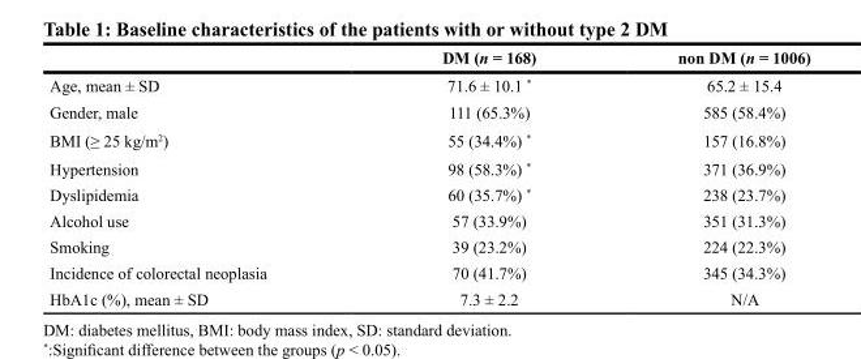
<table><thead><tr><td></td><td>DM (n = 168)</td><td>non DM (n = 1006)</td></tr></thead><tbody><tr><td>Age, mean ± SD</td><td>71.6 ± 10.1 *</td><td>65.2 ± 15.4</td></tr><tr><td>Gender, male</td><td>111 (65.3%)</td><td>585 (58.4%)</td></tr><tr><td>BMI (≥ 25 kg/m<sup>2</sup>)</td><td>55 (34.4%) *</td><td>157 (16.8%)</td></tr><tr><td>Hypertension</td><td>98 (58.3%) *</td><td>371 (36.9%)</td></tr><tr><td>Dyslipidemia</td><td>60 (35.7%) *</td><td>238 (23.7%)</td></tr><tr><td>Alcohol use</td><td>57 (33.9%)</td><td>351 (31.3%)</td></tr><tr><td>Smoking</td><td>39 (23.2%)</td><td>224 (22.3%)</td></tr><tr><td>Incidence of colorectal neoplasia</td><td>70 (41.7%)</td><td>345 (34.3%)</td></tr><tr><td>HbA1c (%), mean ± SD</td><td>7.3 ± 2.2</td><td>N/A</td></tr></tbody></table>